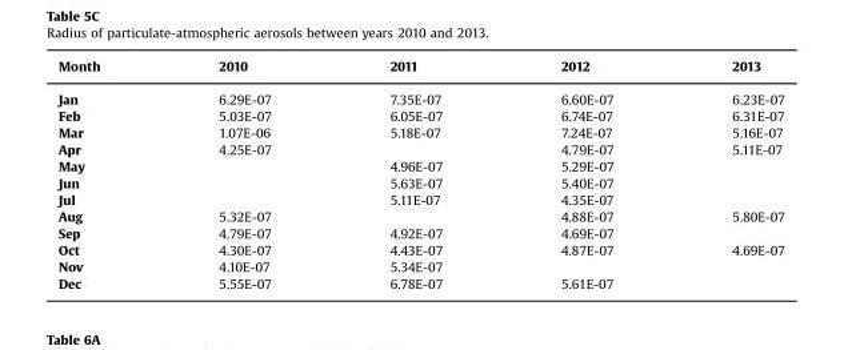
<table><thead><tr><td>Month</td><td>2010</td><td>2011</td><td>2012</td><td>2013</td></tr></thead><tbody><tr><td>Jan</td><td>6.29E-07</td><td>7.35E-07</td><td>6.60E-07</td><td>6.23E-07</td></tr><tr><td>Feb</td><td>5.03E-07</td><td>6.05E-07</td><td>6.74E-07</td><td>6.31E-07</td></tr><tr><td>Mar</td><td>1.07E-06</td><td>5.18E-07</td><td>7.24E-07</td><td>5.16E-07</td></tr><tr><td>Apr</td><td>4.25E-07</td><td></td><td>4.79E-07</td><td>5.11E-07</td></tr><tr><td>May</td><td></td><td>4.96E-07</td><td>5.29E-07</td><td></td></tr><tr><td>Jun</td><td></td><td>5.63E-07</td><td>5.40E-07</td><td></td></tr><tr><td>Jul</td><td></td><td>5.11E-07</td><td>4.35E-07</td><td></td></tr><tr><td>Aug</td><td>5.32E-07</td><td></td><td>4.88E-07</td><td>5.80E-07</td></tr><tr><td>Sep</td><td>4.79E-07</td><td>4.92E-07</td><td>4.69E-07</td><td></td></tr><tr><td>Oct</td><td>4.30E-07</td><td>4.43E-07</td><td>4.87E-07</td><td>4.69E-07</td></tr><tr><td>Nov</td><td>4.10E-07</td><td>5.34E-07</td><td></td><td></td></tr><tr><td>Dec</td><td>5.55E-07</td><td>6.78E-07</td><td>5.61E-07</td><td></td></tr></tbody></table>